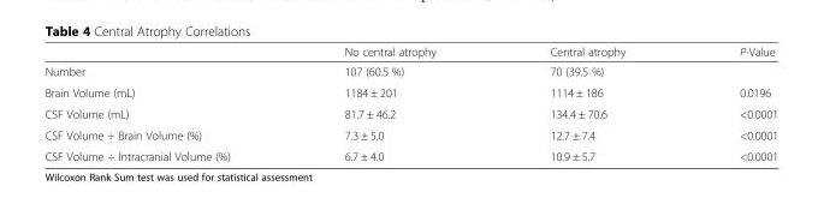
<table><thead><tr><td></td><td>No central atrophy</td><td>Central atrophy</td><td>P-Value</td></tr></thead><tbody><tr><td>Number</td><td>107 (60.5 %)</td><td>70 (39.5 %)</td><td></td></tr><tr><td>Brain Volume (mL)</td><td>1184 ± 201</td><td>1114 ± 186</td><td>0.0196</td></tr><tr><td>CSF Volume (mL)</td><td>81.7 ± 46.2</td><td>134.4 ± 70.6</td><td>&lt;0.0001</td></tr><tr><td>CSF Volume ÷ Brain Volume (%)</td><td>7.3 ± 5.0</td><td>12.7 ± 7.4</td><td>&lt;0.0001</td></tr><tr><td>CSF Volume ÷ Intracranial Volume (%)</td><td>6.7 ± 4.0</td><td>10.9 ± 5.7</td><td>&lt;0.0001</td></tr></tbody></table>